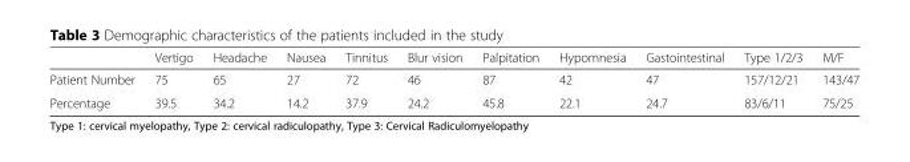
<table><thead><tr><td></td><td>Vertigo</td><td>Headache</td><td>Nausea</td><td>Tinnitus</td><td>Blur vision</td><td>Palpitation</td><td>Hypomnesia</td><td>Gastointestinal</td><td>Type 1/2/3</td><td>M/F</td></tr></thead><tbody><tr><td>Patient Number</td><td>75</td><td>65</td><td>27</td><td>72</td><td>46</td><td>87</td><td>42</td><td>47</td><td>157/12/21</td><td>143/47</td></tr><tr><td>Percentage</td><td>39.5</td><td>34.2</td><td>14.2</td><td>37.9</td><td>24.2</td><td>45.8</td><td>22.1</td><td>24.7</td><td>83/6/11</td><td>75/25</td></tr></tbody></table>